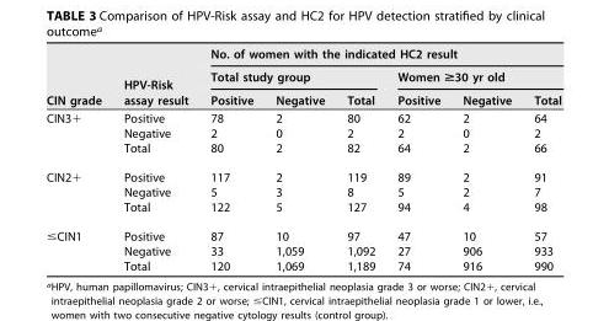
<table><thead><tr><td rowspan="3">CIN grade</td><td rowspan="3">HPV-Risk assay result</td><td colspan="6">No. of women with the indicated HC2 result</td></tr><tr><td colspan="3">Total study group</td><td colspan="3">Women &gt;30 yr old</td></tr><tr><td>Positive</td><td>Negative</td><td>Total</td><td>Positive</td><td>Negative</td><td>Total</td></tr></thead><tbody><tr><td rowspan="3">CIN3+</td><td>Positive</td><td>78</td><td>2</td><td>80</td><td>62</td><td>2</td><td>64</td></tr><tr><td>Negative</td><td>2</td><td>0</td><td>2</td><td>2</td><td>0</td><td>2</td></tr><tr><td>Total</td><td>80</td><td>2</td><td>82</td><td>64</td><td>2</td><td>66</td></tr><tr><td rowspan="3">CIN2+</td><td>Positive</td><td>117</td><td>2</td><td>119</td><td>89</td><td>2</td><td>91</td></tr><tr><td>Negative</td><td>5</td><td>3</td><td>8</td><td>5</td><td>2</td><td>7</td></tr><tr><td>Total</td><td>122</td><td>5</td><td>127</td><td>94</td><td>4</td><td>98</td></tr><tr><td rowspan="3">≤CIN1</td><td>Positive</td><td>87</td><td>10</td><td>97</td><td>47</td><td>10</td><td>57</td></tr><tr><td>Negative</td><td>33</td><td>1,059</td><td>1,092</td><td>27</td><td>906</td><td>933</td></tr><tr><td>Total</td><td>120</td><td>1,069</td><td>1,189</td><td>74</td><td>916</td><td>990</td></tr></tbody></table>